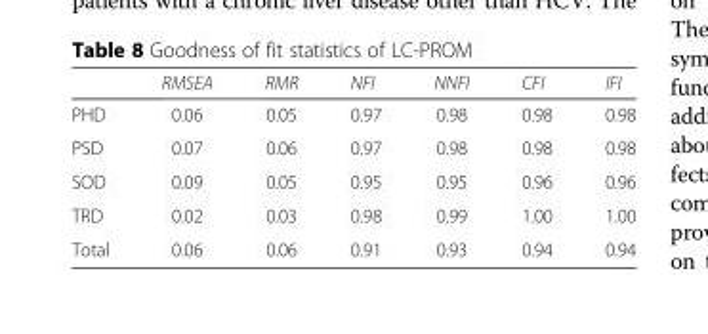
<table><thead><tr><td></td><td>RMSEA</td><td>RMR</td><td>NFI</td><td>NNFI</td><td>CFI</td><td>IFI</td></tr></thead><tbody><tr><td>PHD</td><td>0.06</td><td>0.05</td><td>0.97</td><td>0.98</td><td>0.98</td><td>0.98</td></tr><tr><td>PSD</td><td>0.07</td><td>0.06</td><td>0.97</td><td>0.98</td><td>0.98</td><td>0.98</td></tr><tr><td>SOD</td><td>0.09</td><td>0.05</td><td>0.95</td><td>0.95</td><td>0.96</td><td>0.96</td></tr><tr><td>TRD</td><td>0.02</td><td>0.03</td><td>0.98</td><td>0.99</td><td>1.00</td><td>1.00</td></tr><tr><td>Total</td><td>0.06</td><td>0.06</td><td>0.91</td><td>0.93</td><td>0.94</td><td>0.94</td></tr></tbody></table>